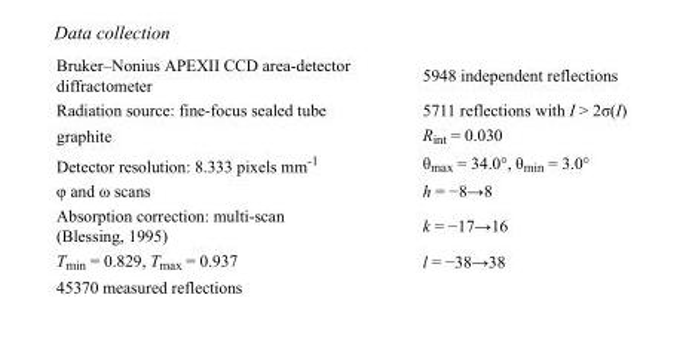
<table><tbody><tr><td>Bruker–Nonius APEXII CCD area-detector diffractometer</td><td>5948 independent reflections</td></tr><tr><td>Radiation source: fine-focus sealed tube</td><td>5711 reflections with I &gt; 2σ(I)</td></tr><tr><td>graphite</td><td>R<sub>int</sub> = 0.030</td></tr><tr><td>Detector resolution: 8.333 pixels mm<sup>-1</sup></td><td>θ<sub>max</sub> = 34.0°, θ<sub>min</sub> = 3.0°</td></tr><tr><td>φ and ω scans</td><td>h = −8→8</td></tr><tr><td>Absorption correction: multi-scan (Blessing, 1995)</td><td>k = −17→16</td></tr><tr><td>T<sub>min</sub> = 0.829, T<sub>max</sub> = 0.937</td><td>l = −38→38</td></tr><tr><td>45370 measured reflections</td><td></td></tr></tbody></table>